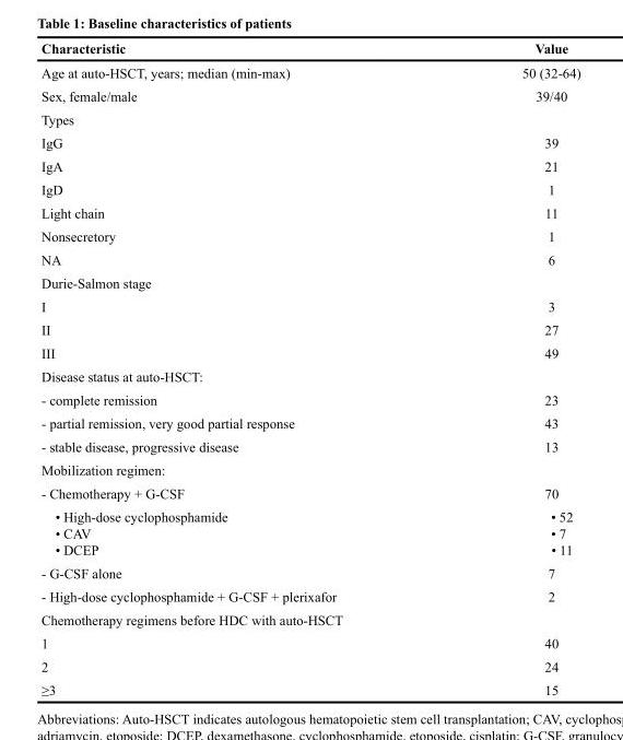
<table><thead><tr><td>Characteristic</td><td>Value</td></tr></thead><tbody><tr><td>Age at auto-HSCT, years; median (min-max)</td><td>50 (32-64)</td></tr><tr><td>Sex, female/male</td><td>39/40</td></tr><tr><td colspan="2">Types</td></tr><tr><td>IgG</td><td>39</td></tr><tr><td>IgA</td><td>21</td></tr><tr><td>IgD</td><td>1</td></tr><tr><td>Light chain</td><td>11</td></tr><tr><td>Nonsecretory</td><td>1</td></tr><tr><td>NA</td><td>6</td></tr><tr><td colspan="2">Durie-Salmon stage</td></tr><tr><td>I</td><td>3</td></tr><tr><td>II</td><td>27</td></tr><tr><td>III</td><td>49</td></tr><tr><td colspan="2">Disease status at auto-HSCT:</td></tr><tr><td>- complete remission</td><td>23</td></tr><tr><td>- partial remission, very good partial response</td><td>43</td></tr><tr><td>- stable disease, progressive disease</td><td>13</td></tr><tr><td colspan="2">Mobilization regimen:</td></tr><tr><td>- Chemotherapy + G-CSF</td><td>70</td></tr><tr><td>• High-dose cyclophosphamide • CAV • DCEP</td><td>• 52 • 7 • 11</td></tr><tr><td>- G-CSF alone</td><td>7</td></tr><tr><td>- High-dose cyclophosphamide + G-CSF + plerixafor</td><td>2</td></tr><tr><td colspan="2">Chemotherapy regimens before HDC with auto-HSCT</td></tr><tr><td>1</td><td>40</td></tr><tr><td>2</td><td>24</td></tr><tr><td>≥3</td><td>15</td></tr></tbody></table>